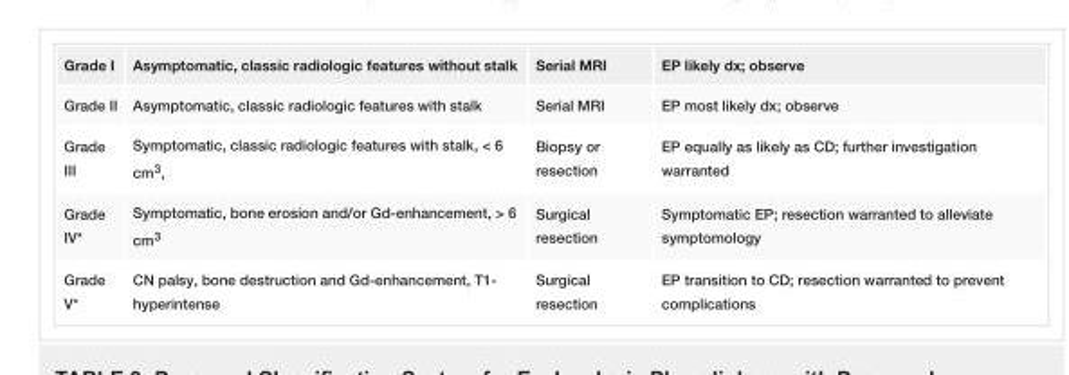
<table><tbody><tr><td>Grade I</td><td>Asymptomatic, classic radiologic features without stalk</td><td>Serial MRI</td><td>EP likely dx; observe</td></tr><tr><td>Grade II</td><td>Asymptomatic, classic radiologic features with stalk</td><td>Serial MRI</td><td>EP most likely dx; observe</td></tr><tr><td>Grade III</td><td>Symptomatic, classic radiologic features with stalk, &lt; 6 cm<sup>3</sup>,</td><td>Biopsy or resection</td><td>EP equally as likely as CD; further investigation warranted</td></tr><tr><td>Grade IV*</td><td>Symptomatic, bone erosion and/or Gd-enhancement, &gt; 6 cm<sup>3</sup></td><td>Surgical resection</td><td>Symptomatic EP; resection warranted to alleviate symptomology</td></tr><tr><td>Grade V*</td><td>CN palsy, bone destruction and Gd-enhancement, T1- hyperintense</td><td>Surgical resection</td><td>EP transition to CD; resection warranted to prevent complications</td></tr></tbody></table>